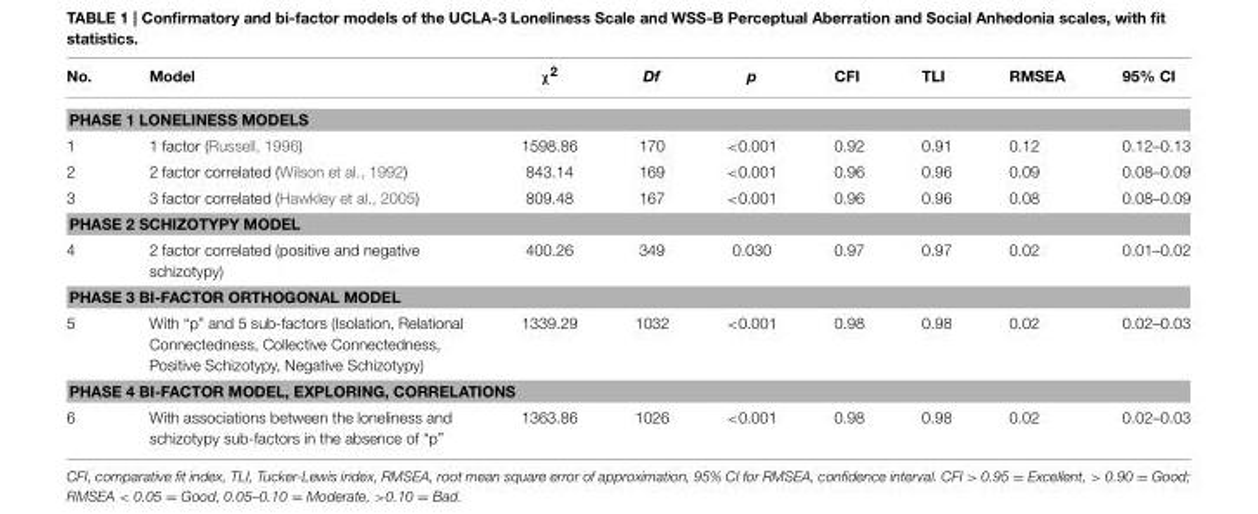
<table><thead><tr><td>No.</td><td>Model</td><td>χ<sup>2</sup></td><td>Df</td><td>p</td><td>CFI</td><td>TLI</td><td>RMSEA</td><td>95% CI</td></tr></thead><tbody><tr><td colspan="9">PHASE 1 LONELINESS MODELS</td></tr><tr><td>1</td><td>1 factor (Russell, 1996)</td><td>1598.86</td><td>170</td><td>&lt;0.001</td><td>0.92</td><td>0.91</td><td>0.12</td><td>0.12–0.13</td></tr><tr><td>2</td><td>2 factor correlated (Wilson et al., 1992)</td><td>843.14</td><td>169</td><td>&lt;0.001</td><td>0.96</td><td>0.96</td><td>0.09</td><td>0.08–0.09</td></tr><tr><td>3</td><td>3 factor correlated (Hawkley et al., 2005)</td><td>809.48</td><td>167</td><td>&lt;0.001</td><td>0.96</td><td>0.96</td><td>0.08</td><td>0.08–0.09</td></tr><tr><td colspan="9">PHASE 2 SCHIZOTYPY MODEL</td></tr><tr><td>4</td><td>2 factor correlated (positive and negative schizotypy)</td><td>400.26</td><td>349</td><td>0.030</td><td>0.97</td><td>0.97</td><td>0.02</td><td>0.01–0.02</td></tr><tr><td colspan="9">PHASE 3 BI-FACTOR ORTHOGONAL MODEL</td></tr><tr><td>5</td><td>With “p” and 5 sub-factors (Isolation, Relational Connectedness, Collective Connectedness, Positive Schizotypy, Negative Schizotypy)</td><td>1339.29</td><td>1032</td><td>&lt;0.001</td><td>0.98</td><td>0.98</td><td>0.02</td><td>0.02–0.03</td></tr><tr><td colspan="9">PHASE 4 BI-FACTOR MODEL, EXPLORING, CORRELATIONS</td></tr><tr><td>6</td><td>With associations between the loneliness and schizotypy sub-factors in the absence of “p”</td><td>1363.86</td><td>1026</td><td>&lt;0.001</td><td>0.98</td><td>0.98</td><td>0.02</td><td>0.02–0.03</td></tr></tbody></table>